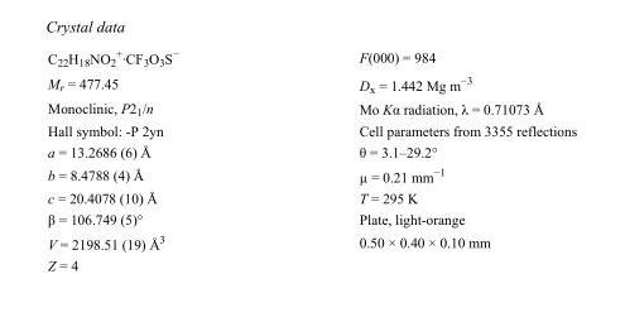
<table><tbody><tr><td>C<sub>22</sub>H<sub>18</sub>NO<sub>2</sub> <sup>+</sup>·CF<sub>3</sub>O<sub>3</sub>S<sup>−</sup></td><td>F(000) = 984</td></tr><tr><td>M<sub>r</sub> = 477.45</td><td>D<sub>x</sub> = 1.442 Mg m<sup>−3</sup></td></tr><tr><td>Monoclinic, P2<sub>1</sub>/n</td><td>Mo Kα radiation, λ = 0.71073 Å</td></tr><tr><td>Hall symbol: -P 2yn</td><td>Cell parameters from 3355 reflections</td></tr><tr><td>a = 13.2686 (6) Å</td><td>θ = 3.1–29.2°</td></tr><tr><td>b = 8.4788 (4) Å</td><td>µ = 0.21 mm<sup>−1</sup></td></tr><tr><td>c = 20.4078 (10) Å</td><td>T = 295 K</td></tr><tr><td>β = 106.749 (5)°</td><td>Plate, light-orange</td></tr><tr><td>V = 2198.51 (19) Å<sup>3</sup></td><td>0.50 × 0.40 × 0.10 mm</td></tr><tr><td>Z = 4</td><td></td></tr></tbody></table>